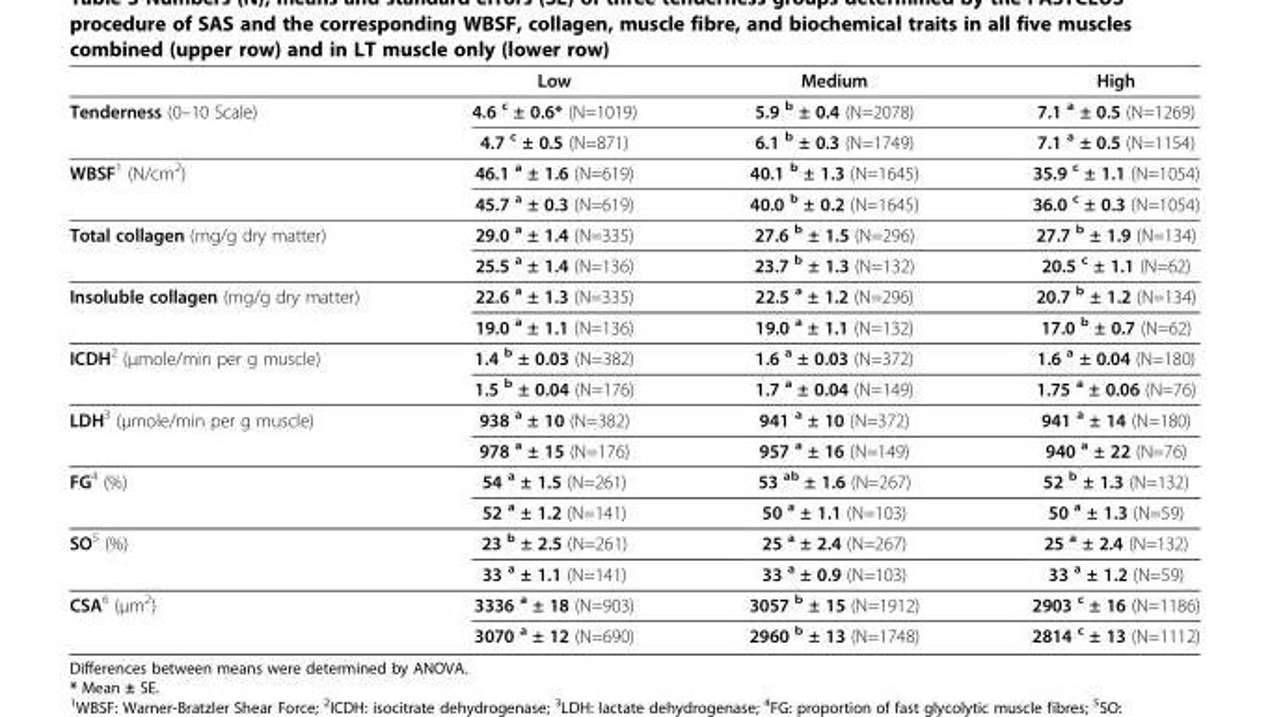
<table><thead><tr><td></td><td>Low</td><td>Medium</td><td>High</td></tr></thead><tbody><tr><td rowspan="2">Tenderness (0–10 Scale)</td><td>4.6 <sup>c</sup> ± 0.6* (N=1019)</td><td>5.9 <sup>b</sup> ± 0.4 (N=2078)</td><td>7.1 <sup>a</sup> ± 0.5 (N=1269)</td></tr><tr><td>4.7 <sup>c</sup> ± 0.5 (N=871)</td><td>6.1 <sup>b</sup> ± 0.3 (N=1749)</td><td>7.1 <sup>a</sup> ± 0.5 (N=1154)</td></tr><tr><td rowspan="2">WBSF<sup>1</sup> (N/cm<sup>2</sup>)</td><td>46.1 <sup>a</sup> ± 1.6 (N=619)</td><td>40.1 <sup>b</sup> ± 1.3 (N=1645)</td><td>35.9 <sup>c</sup> ± 1.1 (N=1054)</td></tr><tr><td>45.7 <sup>a</sup> ± 0.3 (N=619)</td><td>40.0 <sup>b</sup> ± 0.2 (N=1645)</td><td>36.0 <sup>c</sup> ± 0.3 (N=1054)</td></tr><tr><td rowspan="2">Total collagen (mg/g dry matter)</td><td>29.0 <sup>a</sup> ± 1.4 (N=335)</td><td>27.6 <sup>b</sup> ± 1.5 (N=296)</td><td>27.7 <sup>b</sup> ± 1.9 (N=134)</td></tr><tr><td>25.5 <sup>a</sup> ± 1.4 (N=136)</td><td>23.7 <sup>b</sup> ± 1.3 (N=132)</td><td>20.5 <sup>c</sup> ± 1.1 (N=62)</td></tr><tr><td rowspan="2">Insoluble collagen (mg/g dry matter)</td><td>22.6 <sup>a</sup> ± 1.3 (N=335)</td><td>22.5 <sup>a</sup> ± 1.2 (N=296)</td><td>20.7 <sup>b</sup> ± 1.2 (N=134)</td></tr><tr><td>19.0 <sup>a</sup> ± 1.1 (N=136)</td><td>19.0 <sup>a</sup> ± 1.1 (N=132)</td><td>17.0 <sup>b</sup> ± 0.7 (N=62)</td></tr><tr><td rowspan="2">ICDH<sup>2</sup> (μmole/min per g muscle)</td><td>1.4 <sup>b</sup> ± 0.03 (N=382)</td><td>1.6 <sup>a</sup> ± 0.03 (N=372)</td><td>1.6 <sup>a</sup> ± 0.04 (N=180)</td></tr><tr><td>1.5 <sup>b</sup> ± 0.04 (N=176)</td><td>1.7 <sup>a</sup> ± 0.04 (N=149)</td><td>1.75 <sup>a</sup> ± 0.06 (N=76)</td></tr><tr><td rowspan="2">LDH<sup>3</sup> (μmole/min per g muscle)</td><td>938 <sup>a</sup> ± 10 (N=382)</td><td>941 <sup>a</sup> ± 10 (N=372)</td><td>941 <sup>a</sup> ± 14 (N=180)</td></tr><tr><td>978 <sup>a</sup> ± 15 (N=176)</td><td>957 <sup>a</sup> ± 16 (N=149)</td><td>940 <sup>a</sup> ± 22 (N=76)</td></tr><tr><td rowspan="2">FG<sup>4</sup> (%)</td><td>54 <sup>a</sup> ± 1.5 (N=261)</td><td>53 <sup>ab</sup> ± 1.6 (N=267)</td><td>52 <sup>b</sup> ± 1.3 (N=132)</td></tr><tr><td>52 <sup>a</sup> ± 1.2 (N=141)</td><td>50 <sup>a</sup> ± 1.1 (N=103)</td><td>50 <sup>a</sup> ± 1.3 (N=59)</td></tr><tr><td rowspan="2">SO<sup>5</sup> (%)</td><td>23 <sup>b</sup> ± 2.5 (N=261)</td><td>25 <sup>a</sup> ± 2.4 (N=267)</td><td>25 <sup>a</sup> ± 2.4 (N=132)</td></tr><tr><td>33 <sup>a</sup> ± 1.1 (N=141)</td><td>33 <sup>a</sup> ± 0.9 (N=103)</td><td>33 <sup>a</sup> ± 1.2 (N=59)</td></tr><tr><td rowspan="2">CSA<sup>6</sup> (μm<sup>2</sup>)</td><td>3336 <sup>a</sup> ± 18 (N=903)</td><td>3057 <sup>b</sup> ± 15 (N=1912)</td><td>2903 <sup>c</sup> ± 16 (N=1186)</td></tr><tr><td>3070 <sup>a</sup> ± 12 (N=690)</td><td>2960 <sup>b</sup> ± 13 (N=1748)</td><td>2814 <sup>c</sup> ± 13 (N=1112)</td></tr></tbody></table>